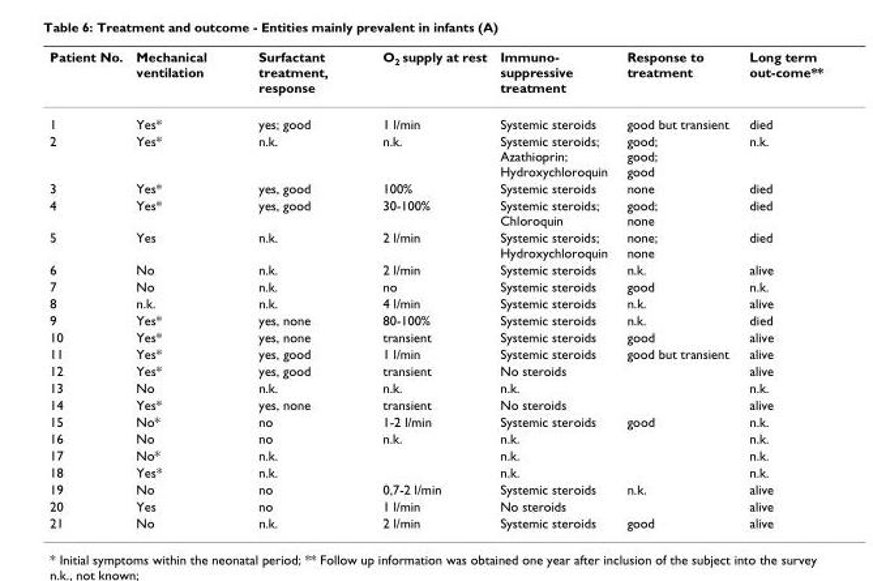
<table><thead><tr><td>Patient No.</td><td>Mechanical ventilation</td><td>Surfactant treatment, response</td><td>O<sub>2</sub> supply at rest</td><td>Immuno- suppressive treatment</td><td>Response to treatment</td><td>Long term out-come**</td></tr></thead><tbody><tr><td>1</td><td>Yes*</td><td>yes; good</td><td>1 l/min</td><td>Systemic steroids</td><td>good but transient</td><td>died</td></tr><tr><td>2</td><td>Yes*</td><td>n.k.</td><td>n.k.</td><td>Systemic steroids; Azathioprin; Hydroxychloroquin</td><td>good; good; good</td><td>n.k.</td></tr><tr><td>3</td><td>Yes*</td><td>yes, good</td><td>100%</td><td>Systemic steroids</td><td>none</td><td>died</td></tr><tr><td>4</td><td>Yes*</td><td>yes, good</td><td>30-100%</td><td>Systemic steroids; Chloroquin</td><td>good; none</td><td>died</td></tr><tr><td>5</td><td>Yes</td><td>n.k.</td><td>2 l/min</td><td>Systemic steroids; Hydroxychloroquin</td><td>none; none</td><td>died</td></tr><tr><td>6</td><td>No</td><td>n.k.</td><td>2 l/min</td><td>Systemic steroids</td><td>n.k.</td><td>alive</td></tr><tr><td>7</td><td>No</td><td>n.k.</td><td>no</td><td>Systemic steroids</td><td>good</td><td>n.k.</td></tr><tr><td>8</td><td>n.k.</td><td>n.k.</td><td>4 l/min</td><td>Systemic steroids</td><td>n.k.</td><td>alive</td></tr><tr><td>9</td><td>Yes*</td><td>yes, none</td><td>80-100%</td><td>Systemic steroids</td><td>n.k.</td><td>died</td></tr><tr><td>10</td><td>Yes*</td><td>yes, none</td><td>transient</td><td>Systemic steroids</td><td>good</td><td>alive</td></tr><tr><td>11</td><td>Yes*</td><td>yes, good</td><td>1 l/min</td><td>Systemic steroids</td><td>good but transient</td><td>alive</td></tr><tr><td>12</td><td>Yes*</td><td>yes, good</td><td>transient</td><td>No steroids</td><td></td><td>alive</td></tr><tr><td>13</td><td>No</td><td>n.k.</td><td>n.k.</td><td>n.k.</td><td></td><td>n.k.</td></tr><tr><td>14</td><td>Yes*</td><td>yes, none</td><td>transient</td><td>No steroids</td><td></td><td>alive</td></tr><tr><td>15</td><td>No*</td><td>no</td><td>1-2 l/min</td><td>Systemic steroids</td><td>good</td><td>n.k.</td></tr><tr><td>16</td><td>No</td><td>no</td><td>n.k.</td><td>n.k.</td><td></td><td>n.k.</td></tr><tr><td>17</td><td>No*</td><td>n.k.</td><td></td><td>n.k.</td><td></td><td>n.k.</td></tr><tr><td>18</td><td>Yes*</td><td>n.k.</td><td></td><td>n.k.</td><td></td><td>n.k.</td></tr><tr><td>19</td><td>No</td><td>no</td><td>0,7-2 l/min</td><td>Systemic steroids</td><td>n.k.</td><td>alive</td></tr><tr><td>20</td><td>Yes</td><td>no</td><td>1 l/min</td><td>No steroids</td><td></td><td>alive</td></tr><tr><td>21</td><td>No</td><td>n.k.</td><td>2 l/min</td><td>Systemic steroids</td><td>good</td><td>alive</td></tr></tbody></table>